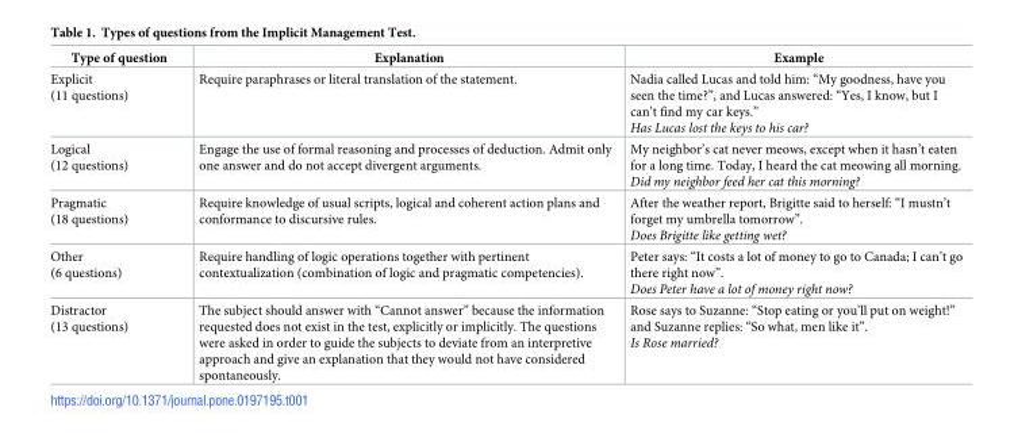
<table><thead><tr><td>Type of question</td><td>Explanation</td><td>Example</td></tr></thead><tbody><tr><td>Explicit (11 questions)</td><td>Require paraphrases or literal translation of the statement.</td><td>Nadia called Lucas and told him: “My goodness, have you seen the time?”, and Lucas answered: “Yes, I know, but I can’t find my car keys.” Has Lucas lost the keys to his car?</td></tr><tr><td>Logical (12 questions)</td><td>Engage the use of formal reasoning and processes of deduction. Admit only one answer and do not accept divergent arguments.</td><td>My neighbor’s cat never meows, except when it hasn’t eaten for a long time. Today, I heard the cat meowing all morning. Did my neighbor feed her cat this morning?</td></tr><tr><td>Pragmatic (18 questions)</td><td>Require knowledge of usual scripts, logical and coherent action plans and conformance to discursive rules.</td><td>After the weather report, Brigitte said to herself: “I mustn’t forget my umbrella tomorrow”. Does Brigitte like getting wet?</td></tr><tr><td>Other (6 questions)</td><td>Require handling of logic operations together with pertinent contextualization (combination of logic and pragmatic competencies).</td><td>Peter says: “It costs a lot of money to go to Canada; I can’t go there right now”. Does Peter have a lot of money right now?</td></tr><tr><td>Distractor (13 questions)</td><td>The subject should answer with “Cannot answer” because the information requested does not exist in the test, explicitly or implicitly. The questions were asked in order to guide the subjects to deviate from an interpretive approach and give an explanation that they would not have considered spontaneously.</td><td>Rose says to Suzanne: “Stop eating or you’ll put on weight!” and Suzanne replies: “So what, men like it”. Is Rose married?</td></tr></tbody></table>